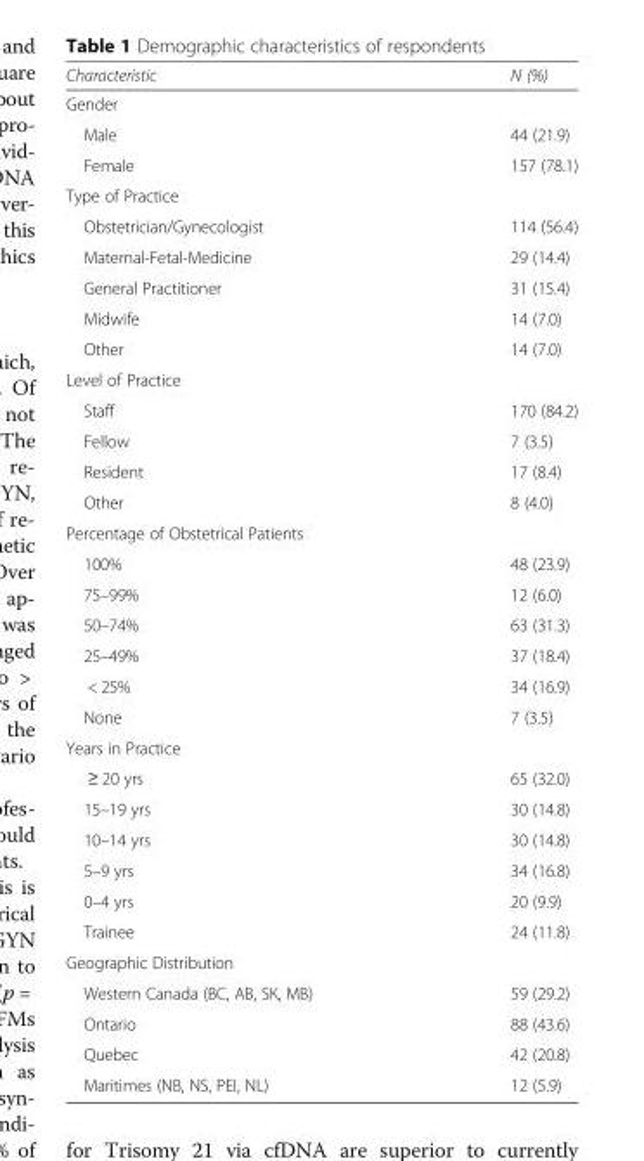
<table><thead><tr><td>Characteristic</td><td>N (%)</td></tr></thead><tbody><tr><td colspan="2">Gender</td></tr><tr><td>Male</td><td>44 (21.9)</td></tr><tr><td>Female</td><td>157 (78.1)</td></tr><tr><td colspan="2">Type of Practice</td></tr><tr><td>Obstetrician/Gynecologist</td><td>114 (56.4)</td></tr><tr><td>Maternal-Fetal-Medicine</td><td>29 (14.4)</td></tr><tr><td>General Practitioner</td><td>31 (15.4)</td></tr><tr><td>Midwife</td><td>14 (7.0)</td></tr><tr><td>Other</td><td>14 (7.0)</td></tr><tr><td colspan="2">Level of Practice</td></tr><tr><td>Staff</td><td>170 (84.2)</td></tr><tr><td>Fellow</td><td>7 (3.5)</td></tr><tr><td>Resident</td><td>17 (8.4)</td></tr><tr><td>Other</td><td>8 (4.0)</td></tr><tr><td colspan="2">Percentage of Obstetrical Patients</td></tr><tr><td>100%</td><td>48 (23.9)</td></tr><tr><td>75–99%</td><td>12 (6.0)</td></tr><tr><td>50–74%</td><td>63 (31.3)</td></tr><tr><td>25–49%</td><td>37 (18.4)</td></tr><tr><td>&lt; 25%</td><td>34 (16.9)</td></tr><tr><td>None</td><td>7 (3.5)</td></tr><tr><td colspan="2">Years in Practice</td></tr><tr><td>≥ 20 yrs</td><td>65 (32.0)</td></tr><tr><td>15–19 yrs</td><td>30 (14.8)</td></tr><tr><td>10–14 yrs</td><td>30 (14.8)</td></tr><tr><td>5–9 yrs</td><td>34 (16.8)</td></tr><tr><td>0–4 yrs</td><td>20 (9.9)</td></tr><tr><td>Trainee</td><td>24 (11.8)</td></tr><tr><td colspan="2">Geographic Distribution</td></tr><tr><td>Western Canada (BC, AB, SK, MB)</td><td>59 (29.2)</td></tr><tr><td>Ontario</td><td>88 (43.6)</td></tr><tr><td>Quebec</td><td>42 (20.8)</td></tr><tr><td>Maritimes (NB, NS, PEI, NL)</td><td>12 (5.9)</td></tr></tbody></table>